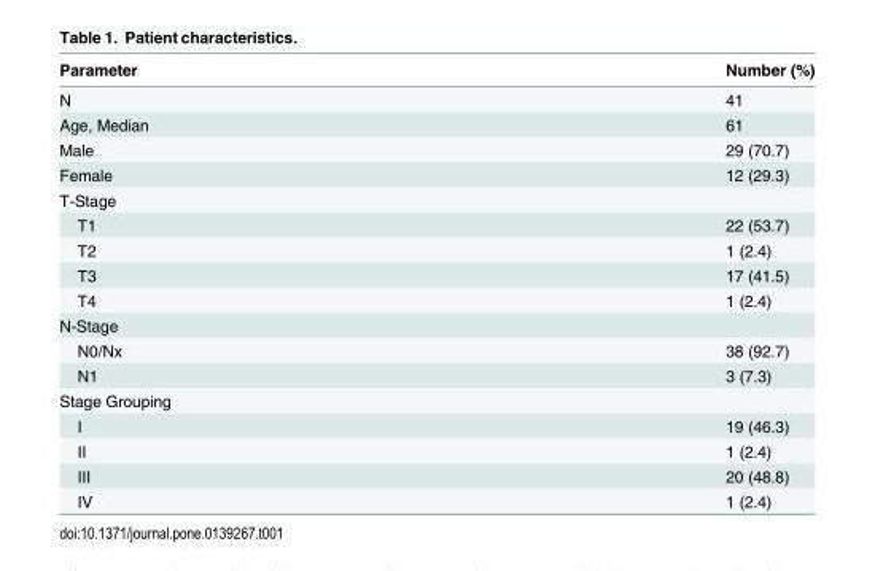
<table><thead><tr><td>Parameter</td><td>Number (%)</td></tr></thead><tbody><tr><td>N</td><td>41</td></tr><tr><td>Age, Median</td><td>61</td></tr><tr><td>Male</td><td>29 (70.7)</td></tr><tr><td>Female</td><td>12 (29.3)</td></tr><tr><td colspan="2">T-Stage</td></tr><tr><td>T1</td><td>22 (53.7)</td></tr><tr><td>T2</td><td>1 (2.4)</td></tr><tr><td>T3</td><td>17 (41.5)</td></tr><tr><td>T4</td><td>1 (2.4)</td></tr><tr><td colspan="2">N-Stage</td></tr><tr><td>N0/Nx</td><td>38 (92.7)</td></tr><tr><td>N1</td><td>3 (7.3)</td></tr><tr><td colspan="2">Stage Grouping</td></tr><tr><td>I</td><td>19 (46.3)</td></tr><tr><td>II</td><td>1 (2.4)</td></tr><tr><td>III</td><td>20 (48.8)</td></tr><tr><td>IV</td><td>1 (2.4)</td></tr></tbody></table>